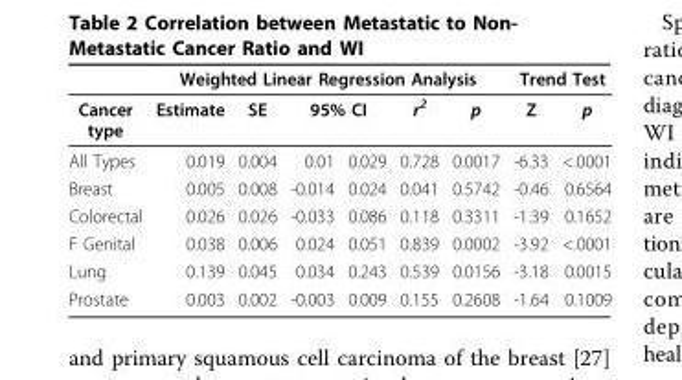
<table><thead><tr><td rowspan="3">Cancer type All Types</td><td colspan="6">Weighted Linear Regression Analysis</td><td colspan="2">Trend Test</td></tr><tr><td rowspan="2">Estimate 0.019</td><td rowspan="2">SE 0.004</td><td colspan="2">95% CI</td><td rowspan="2">r2 0.728</td><td rowspan="2">p 0.0017</td><td rowspan="2">Z -6.33</td><td rowspan="2">p &lt;.0001</td></tr><tr><td>0.01</td><td>0.029</td></tr></thead><tbody><tr><td>Breast</td><td>0.005</td><td>0.008</td><td>-0.014</td><td>0.024</td><td>0.041</td><td>0.5742</td><td>-0.46</td><td>0.6564</td></tr><tr><td>Colorectal</td><td>0.026</td><td>0.026</td><td>-0.033</td><td>0.086</td><td>0.118</td><td>0.3311</td><td>-1.39</td><td>0.1652</td></tr><tr><td>F Genital</td><td>0.038</td><td>0.006</td><td>0.024</td><td>0.051</td><td>0.839</td><td>0.0002</td><td>-3.92</td><td>&lt;.0001</td></tr><tr><td>Lung</td><td>0.139</td><td>0.045</td><td>0.034</td><td>0.243</td><td>0.539</td><td>0.0156</td><td>-3.18</td><td>0.0015</td></tr><tr><td>Prostate</td><td>0.003</td><td>0.002</td><td>-0.003</td><td>0.009</td><td>0.155</td><td>0.2608</td><td>-1.64</td><td>0.1009</td></tr></tbody></table>